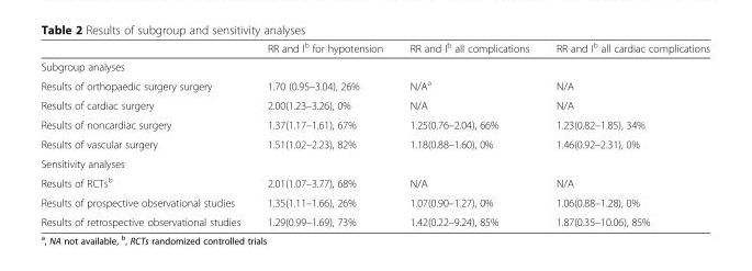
<table><thead><tr><td></td><td>RR and I<sup>b</sup> for hypotension</td><td>RR and I<sup>b</sup> all complications</td><td>RR and I<sup>b</sup> all cardiac complications</td></tr></thead><tbody><tr><td colspan="4">Subgroup analyses</td></tr><tr><td>Results of orthopaedic surgery surgery</td><td>1.70 (0.95–3.04), 26%</td><td>N/A<sup>a</sup></td><td>N/A</td></tr><tr><td>Results of cardiac surgery</td><td>2.00(1.23–3.26), 0%</td><td>N/A</td><td>N/A</td></tr><tr><td>Results of noncardiac surgery</td><td>1.37(1.17–1.61), 67%</td><td>1.25(0.76–2.04), 66%</td><td>1.23(0.82–1.85), 34%</td></tr><tr><td>Results of vascular surgery</td><td>1.51(1.02–2.23), 82%</td><td>1.18(0.88–1.60), 0%</td><td>1.46(0.92–2.31), 0%</td></tr><tr><td colspan="4">Sensitivity analyses</td></tr><tr><td>Results of RCTs<sup>b</sup></td><td>2.01(1.07–3.77), 68%</td><td>N/A</td><td>N/A</td></tr><tr><td>Results of prospective observational studies</td><td>1.35(1.11–1.66), 26%</td><td>1.07(0.90–1.27), 0%</td><td>1.06(0.88–1.28), 0%</td></tr><tr><td>Results of retrospective observational studies</td><td>1.29(0.99–1.69), 73%</td><td>1.42(0.22–9.24), 85%</td><td>1.87(0.35–10.06), 85%</td></tr></tbody></table>